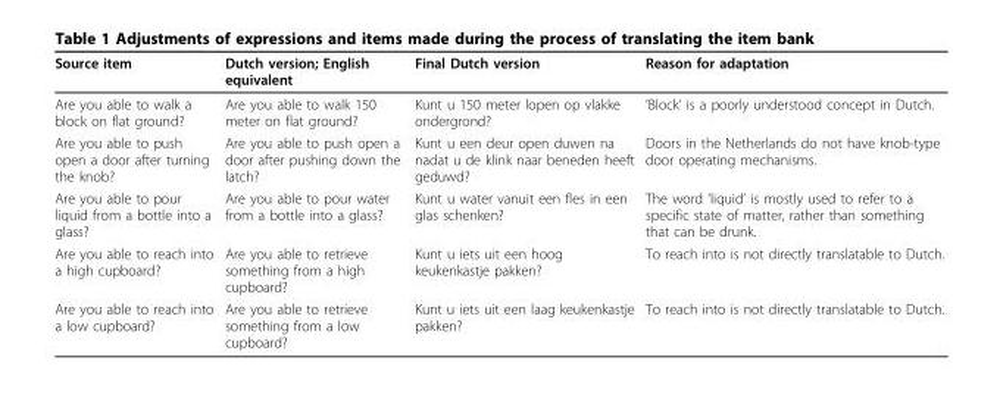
<table><thead><tr><td>Source item</td><td>Dutch version; English equivalent</td><td>Final Dutch version</td><td>Reason for adaptation</td></tr></thead><tbody><tr><td>Are you able to walk a block on flat ground?</td><td>Are you able to walk 150 meter on flat ground?</td><td>Kunt u 150 meter lopen op vlakke ondergrond?</td><td>’Block’ is a poorly understood concept in Dutch.</td></tr><tr><td>Are you able to push open a door after turning the knob?</td><td>Are you able to push open a door after pushing down the latch?</td><td>Kunt u een deur open duwen na nadat u de klink naar beneden heeft geduwd?</td><td>Doors in the Netherlands do not have knob-type door operating mechanisms.</td></tr><tr><td>Are you able to pour liquid from a bottle into a glass?</td><td>Are you able to pour water from a bottle into a glass?</td><td>Kunt u water vanuit een fles in een glas schenken?</td><td>The word ‘liquid’ is mostly used to refer to a specific state of matter, rather than something that can be drunk.</td></tr><tr><td>Are you able to reach into a high cupboard?</td><td>Are you able to retrieve something from a high cupboard?</td><td>Kunt u iets uit een hoog keukenkastje pakken?</td><td>To reach into is not directly translatable to Dutch.</td></tr><tr><td>Are you able to reach into a low cupboard?</td><td>Are you able to retrieve something from a low cupboard?</td><td>Kunt u iets uit een laag keukenkastje pakken?</td><td>To reach into is not directly translatable to Dutch.</td></tr></tbody></table>